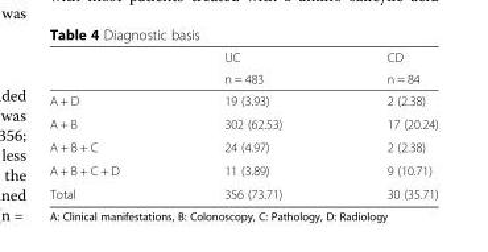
<table><thead><tr><td rowspan="2"></td><td rowspan="2">UC n = 483</td><td rowspan="2">CD n = 84</td></tr><tr></tr></thead><tbody><tr><td>A + D</td><td>19 (3.93)</td><td>2 (2.38)</td></tr><tr><td>A + B</td><td>302 (62.53)</td><td>17 (20.24)</td></tr><tr><td>A + B + C</td><td>24 (4.97)</td><td>2 (2.38)</td></tr><tr><td>A + B + C + D</td><td>11 (3.89)</td><td>9 (10.71)</td></tr><tr><td>Total</td><td>356 (73.71)</td><td>30 (35.71)</td></tr></tbody></table>